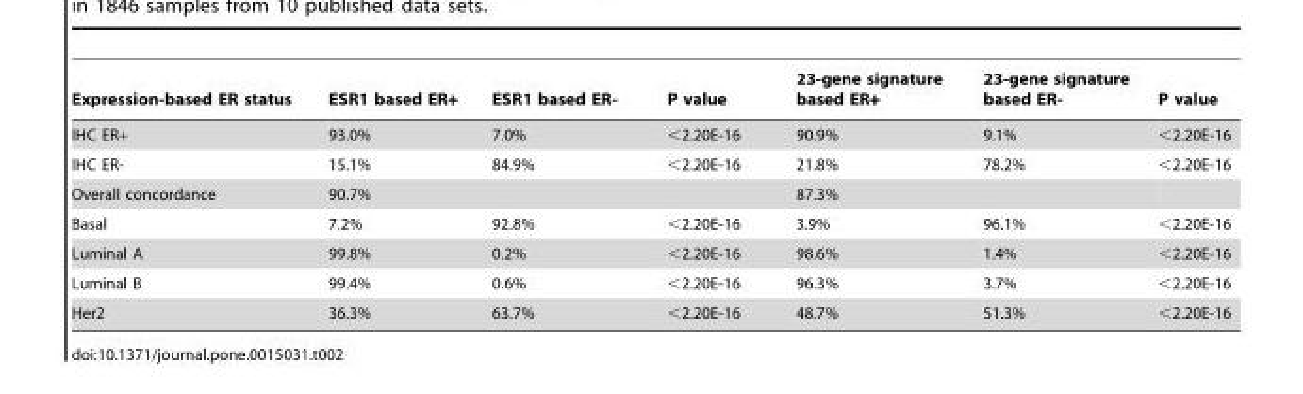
<table><thead><tr><td>Expression-based ER status</td><td>ESR1 based ER+</td><td>ESR1 based ER-</td><td>P value</td><td>23-gene signature based ER+</td><td>23-gene signature based ER-</td><td>P value</td></tr></thead><tbody><tr><td>IHC ER+</td><td>93.0%</td><td>7.0%</td><td>&lt;2.20E-16</td><td>90.9%</td><td>9.1%</td><td>&lt;2.20E-16</td></tr><tr><td>IHC ER-</td><td>15.1%</td><td>84.9%</td><td>&lt;2.20E-16</td><td>21.8%</td><td>78.2%</td><td>&lt;2.20E-16</td></tr><tr><td>Overall concordance</td><td colspan="2">90.7%</td><td></td><td colspan="2">87.3%</td><td></td></tr><tr><td>Basal</td><td>7.2%</td><td>92.8%</td><td>&lt;2.20E-16</td><td>3.9%</td><td>96.1%</td><td>&lt;2.20E-16</td></tr><tr><td>Luminal A</td><td>99.8%</td><td>0.2%</td><td>&lt;2.20E-16</td><td>98.6%</td><td>1.4%</td><td>&lt;2.20E-16</td></tr><tr><td>Luminal B</td><td>99.4%</td><td>0.6%</td><td>&lt;2.20E-16</td><td>96.3%</td><td>3.7%</td><td>&lt;2.20E-16</td></tr><tr><td>Her2</td><td>36.3%</td><td>63.7%</td><td>&lt;2.20E-16</td><td>48.7%</td><td>51.3%</td><td>&lt;2.20E-16</td></tr></tbody></table>